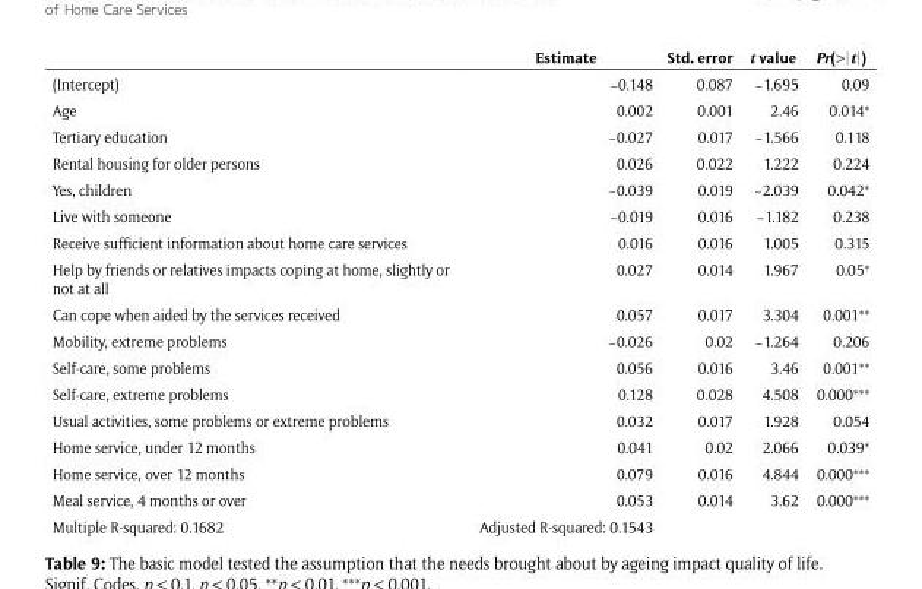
<table><thead><tr><td></td><td>Estimate</td><td>Std. error</td><td>t value</td><td>Pr(&gt;|t|)</td></tr></thead><tbody><tr><td>(Intercept)</td><td>−0.148</td><td>0.087</td><td>−1.695</td><td>0.09</td></tr><tr><td>Age</td><td>0.002</td><td>0.001</td><td>2.46</td><td>0.014*</td></tr><tr><td>Tertiary education</td><td>−0.027</td><td>0.017</td><td>−1.566</td><td>0.118</td></tr><tr><td>Rental housing for older persons</td><td>0.026</td><td>0.022</td><td>1.222</td><td>0.224</td></tr><tr><td>Yes, children</td><td>−0.039</td><td>0.019</td><td>−2.039</td><td>0.042*</td></tr><tr><td>Live with someone</td><td>−0.019</td><td>0.016</td><td>−1.182</td><td>0.238</td></tr><tr><td>Receive sufficient information about home care services</td><td>0.016</td><td>0.016</td><td>1.005</td><td>0.315</td></tr><tr><td>Help by friends or relatives impacts coping at home, slightly or not at all</td><td>0.027</td><td>0.014</td><td>1.967</td><td>0.05*</td></tr><tr><td>Can cope when aided by the services received</td><td>0.057</td><td>0.017</td><td>3.304</td><td>0.001**</td></tr><tr><td>Mobility, extreme problems</td><td>−0.026</td><td>0.02</td><td>−1.264</td><td>0.206</td></tr><tr><td>Self-care, some problems</td><td>0.056</td><td>0.016</td><td>3.46</td><td>0.001**</td></tr><tr><td>Self-care, extreme problems</td><td>0.128</td><td>0.028</td><td>4.508</td><td>0.000***</td></tr><tr><td>Usual activities, some problems or extreme problems</td><td>0.032</td><td>0.017</td><td>1.928</td><td>0.054</td></tr><tr><td>Home service, under 12 months</td><td>0.041</td><td>0.02</td><td>2.066</td><td>0.039*</td></tr><tr><td>Home service, over 12 months</td><td>0.079</td><td>0.016</td><td>4.844</td><td>0.000***</td></tr><tr><td>Meal service, 4 months or over</td><td>0.053</td><td>0.014</td><td>3.62</td><td>0.000***</td></tr><tr><td>Multiple R-squared: 0.1682</td><td>Adjusted R-squared: 0.1543</td><td></td><td></td><td></td></tr></tbody></table>